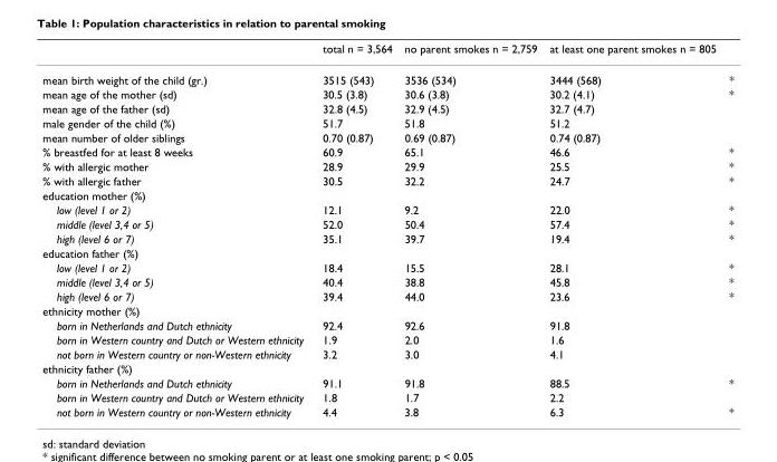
<table><thead><tr><td></td><td>total n = 3,564</td><td>no parent smokes n = 2,759</td><td>at least one parent smokes n = 805</td><td></td></tr></thead><tbody><tr><td>mean birth weight of the child (gr.)</td><td>3515 (543)</td><td>3536 (534)</td><td>3444 (568)</td><td>*</td></tr><tr><td>mean age of the mother (sd)</td><td>30.5 (3.8)</td><td>30.6 (3.8)</td><td>30.2 (4.1)</td><td>*</td></tr><tr><td>mean age of the father (sd)</td><td>32.8 (4.5)</td><td>32.9 (4.5)</td><td>32.7 (4.7)</td><td></td></tr><tr><td>male gender of the child (%)</td><td>51.7</td><td>51.8</td><td>51.2</td><td></td></tr><tr><td>mean number of older siblings</td><td>0.70 (0.87)</td><td>0.69 (0.87)</td><td>0.74 (0.87)</td><td></td></tr><tr><td>% breastfed for at least 8 weeks</td><td>60.9</td><td>65.1</td><td>46.6</td><td>*</td></tr><tr><td>% with allergic mother</td><td>28.9</td><td>29.9</td><td>25.5</td><td>*</td></tr><tr><td>% with allergic father</td><td>30.5</td><td>32.2</td><td>24.7</td><td>*</td></tr><tr><td colspan="5">education mother (%)</td></tr><tr><td>low (level 1 or 2)</td><td>12.1</td><td>9.2</td><td>22.0</td><td>*</td></tr><tr><td>middle (level 3,4 or 5)</td><td>52.0</td><td>50.4</td><td>57.4</td><td>*</td></tr><tr><td>high (level 6 or 7)</td><td>35.1</td><td>39.7</td><td>19.4</td><td>*</td></tr><tr><td colspan="5">education father (%)</td></tr><tr><td>low (level 1 or 2)</td><td>18.4</td><td>15.5</td><td>28.1</td><td>*</td></tr><tr><td>middle (level 3,4 or 5)</td><td>40.4</td><td>38.8</td><td>45.8</td><td>*</td></tr><tr><td>high (level 6 or 7)</td><td>39.4</td><td>44.0</td><td>23.6</td><td>*</td></tr><tr><td colspan="5">ethnicity mother (%)</td></tr><tr><td>born in Netherlands and Dutch ethnicity</td><td>92.4</td><td>92.6</td><td>91.8</td><td></td></tr><tr><td>born in Western country and Dutch or Western ethnicity</td><td>1.9</td><td>2.0</td><td>1.6</td><td></td></tr><tr><td>not born in Western country or non-Western ethnicity</td><td>3.2</td><td>3.0</td><td>4.1</td><td></td></tr><tr><td colspan="5">ethnicity father (%)</td></tr><tr><td>born in Netherlands and Dutch ethnicity</td><td>91.1</td><td>91.8</td><td>88.5</td><td>*</td></tr><tr><td>born in Western country and Dutch or Western ethnicity</td><td>1.8</td><td>1.7</td><td>2.2</td><td></td></tr><tr><td>not born in Western country or non-Western ethnicity</td><td>4.4</td><td>3.8</td><td>6.3</td><td>*</td></tr></tbody></table>